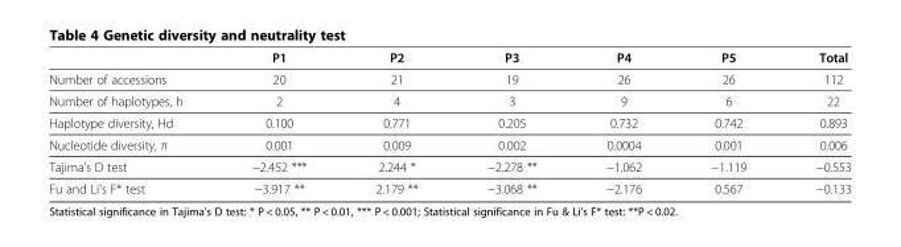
<table><thead><tr><td></td><td>P1</td><td>P2</td><td>P3</td><td>P4</td><td>P5</td><td>Total</td></tr></thead><tbody><tr><td>Number of accessions</td><td>20</td><td>21</td><td>19</td><td>26</td><td>26</td><td>112</td></tr><tr><td>Number of haplotypes, h</td><td>2</td><td>4</td><td>3</td><td>9</td><td>6</td><td>22</td></tr><tr><td>Haplotype diversity, Hd</td><td>0.100</td><td>0.771</td><td>0.205</td><td>0.732</td><td>0.742</td><td>0.893</td></tr><tr><td>Nucleotide diversity, π</td><td>0.001</td><td>0.009</td><td>0.002</td><td>0.0004</td><td>0.001</td><td>0.006</td></tr><tr><td>Tajima&#x27;s D test</td><td>−2.452 ***</td><td>2.244 *</td><td>−2.278 **</td><td>−1.062</td><td>−1.119</td><td>−0.553</td></tr><tr><td>Fu and Li&#x27;s F* test</td><td>−3.917 **</td><td>2.179 **</td><td>−3.068 **</td><td>−2.176</td><td>0.567</td><td>−0.133</td></tr></tbody></table>